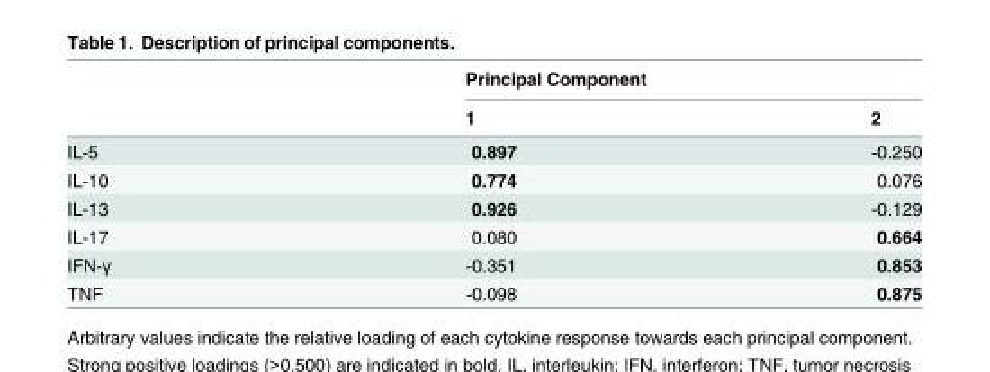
<table><thead><tr><td rowspan="2"></td><td colspan="2">Principal Component</td></tr><tr><td>1</td><td>2</td></tr></thead><tbody><tr><td>IL-5</td><td>0.897</td><td>-0.250</td></tr><tr><td>IL-10</td><td>0.774</td><td>0.076</td></tr><tr><td>IL-13</td><td>0.926</td><td>-0.129</td></tr><tr><td>IL-17</td><td>0.080</td><td>0.664</td></tr><tr><td>IFN-γ</td><td>-0.351</td><td>0.853</td></tr><tr><td>TNF</td><td>-0.098</td><td>0.875</td></tr></tbody></table>